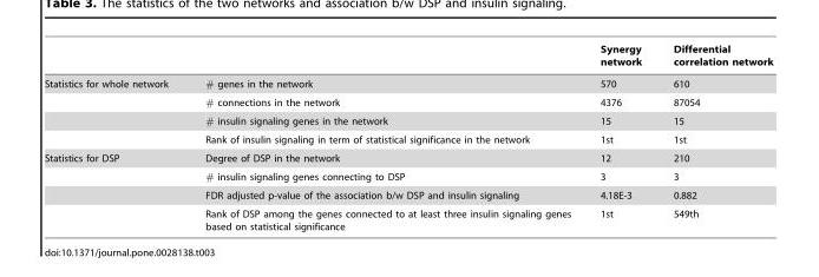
<table><thead><tr><td></td><td></td><td>Synergy network</td><td>Differential correlation network</td></tr></thead><tbody><tr><td rowspan="4">Statistics for whole network</td><td># genes in the network</td><td>570</td><td>610</td></tr><tr><td># connections in the network</td><td>4376</td><td>87054</td></tr><tr><td># insulin signaling genes in the network</td><td>15</td><td>15</td></tr><tr><td>Rank of insulin signaling in term of statistical significance in the network</td><td>1st</td><td>1st</td></tr><tr><td rowspan="4">Statistics for DSP</td><td>Degree of DSP in the network</td><td>12</td><td>210</td></tr><tr><td># insulin signaling genes connecting to DSP</td><td>3</td><td>3</td></tr><tr><td>FDR adjusted p-value of the association b/w DSP and insulin signaling</td><td>4.18E-3</td><td>0.882</td></tr><tr><td>Rank of DSP among the genes connected to at least three insulin signaling genes based on statistical significance</td><td>1st</td><td>549th</td></tr></tbody></table>